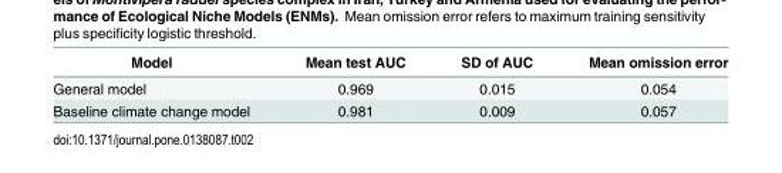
<table><thead><tr><td>Model</td><td>Mean test AUC</td><td>SD of AUC</td><td>Mean omission error</td></tr></thead><tbody><tr><td>General model</td><td>0.969</td><td>0.015</td><td>0.054</td></tr><tr><td>Baseline climate change model</td><td>0.981</td><td>0.009</td><td>0.057</td></tr></tbody></table>